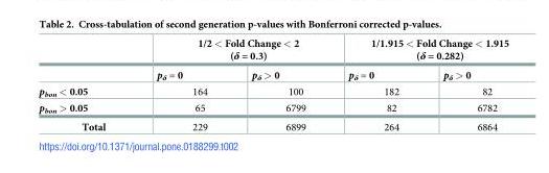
<table><thead><tr><td rowspan="2"></td><td colspan="2">1/2 &lt; Fold Change &lt; 2 (δ = 0.3)</td><td colspan="2">1/1.915 &lt; Fold Change &lt; 1.915 (δ = 0.282)</td></tr><tr><td>p<sub>δ</sub> = 0</td><td>p<sub>δ</sub> &gt; 0</td><td>p<sub>δ</sub> = 0</td><td>p<sub>δ</sub> &gt; 0</td></tr></thead><tbody><tr><td>p<sub>bon</sub> &lt; 0.05</td><td>164</td><td>100</td><td>182</td><td>82</td></tr><tr><td>p<sub>bon</sub> &gt; 0.05</td><td>65</td><td>6799</td><td>82</td><td>6782</td></tr><tr><td>Total</td><td>229</td><td>6899</td><td>264</td><td>6864</td></tr></tbody></table>